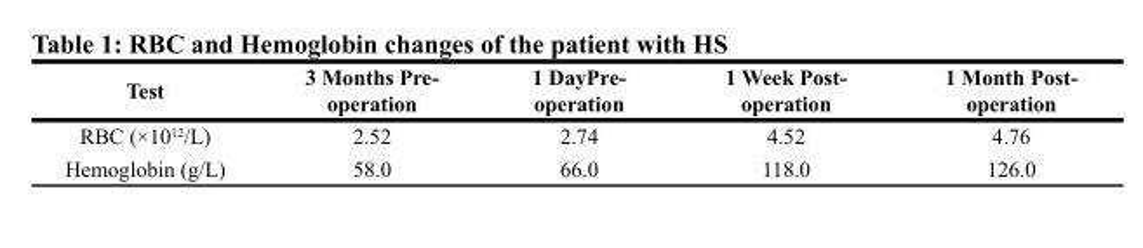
<table><thead><tr><td>Test</td><td>3 Months Pre- operation</td><td>1 DayPre- operation</td><td>1 Week Post- operation</td><td>1 Month Post- operation</td></tr></thead><tbody><tr><td>RBC (×10<sup>12</sup>/L)</td><td>2.52</td><td>2.74</td><td>4.52</td><td>4.76</td></tr><tr><td>Hemoglobin (g/L)</td><td>58.0</td><td>66.0</td><td>118.0</td><td>126.0</td></tr></tbody></table>